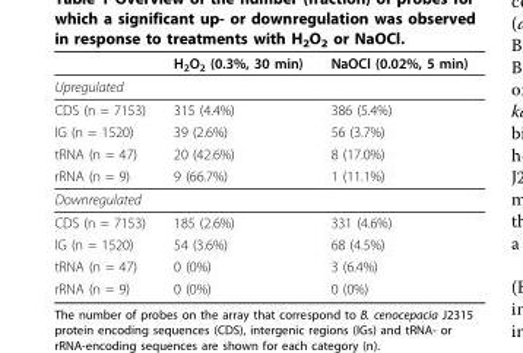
<table><thead><tr><td></td><td>H<sub>2</sub>O<sub>2</sub> (0.3%, 30 min)</td><td>NaOCl (0.02%, 5 min)</td></tr></thead><tbody><tr><td colspan="3">Upregulated</td></tr><tr><td>CDS (n = 7153)</td><td>315 (4.4%)</td><td>386 (5.4%)</td></tr><tr><td>IG (n = 1520)</td><td>39 (2.6%)</td><td>56 (3.7%)</td></tr><tr><td>tRNA (n = 47)</td><td>20 (42.6%)</td><td>8 (17.0%)</td></tr><tr><td>rRNA (n = 9)</td><td>9 (66.7%)</td><td>1 (11.1%)</td></tr><tr><td colspan="3">Downregulated</td></tr><tr><td>CDS (n = 7153)</td><td>185 (2.6%)</td><td>331 (4.6%)</td></tr><tr><td>IG (n = 1520)</td><td>54 (3.6%)</td><td>68 (4.5%)</td></tr><tr><td>tRNA (n = 47)</td><td>0 (0%)</td><td>3 (6.4%)</td></tr><tr><td>rRNA (n = 9)</td><td>0 (0%)</td><td>0 (0%)</td></tr></tbody></table>